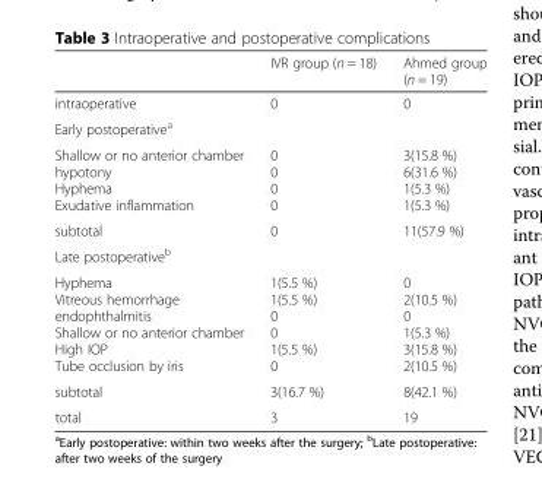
<table><thead><tr><td></td><td>IVR group (n = 18)</td><td>Ahmed group (n = 19)</td></tr></thead><tbody><tr><td>intraoperative</td><td>0</td><td>0</td></tr><tr><td colspan="3">Early postoperative<sup>a</sup></td></tr><tr><td>Shallow or no anterior chamber hypotony Hyphema Exudative inflammation</td><td>0 0 0 0</td><td>3(15.8 %) 6(31.6 %) 1(5.3 %) 1(5.3 %)</td></tr><tr><td>subtotal</td><td>0</td><td>11(57.9 %)</td></tr><tr><td colspan="3">Late postoperative<sup>b</sup></td></tr><tr><td>Hyphema Vitreous hemorrhage endophthalmitis Shallow or no anterior chamber High IOP Tube occlusion by iris</td><td>1(5.5 %) 1(5.5 %) 0 0 1(5.5 %) 0</td><td>0 2(10.5 %) 0 1(5.3 %) 3(15.8 %) 2(10.5 %)</td></tr><tr><td>subtotal</td><td>3(16.7 %)</td><td>8(42.1 %)</td></tr><tr><td>total</td><td>3</td><td>19</td></tr></tbody></table>